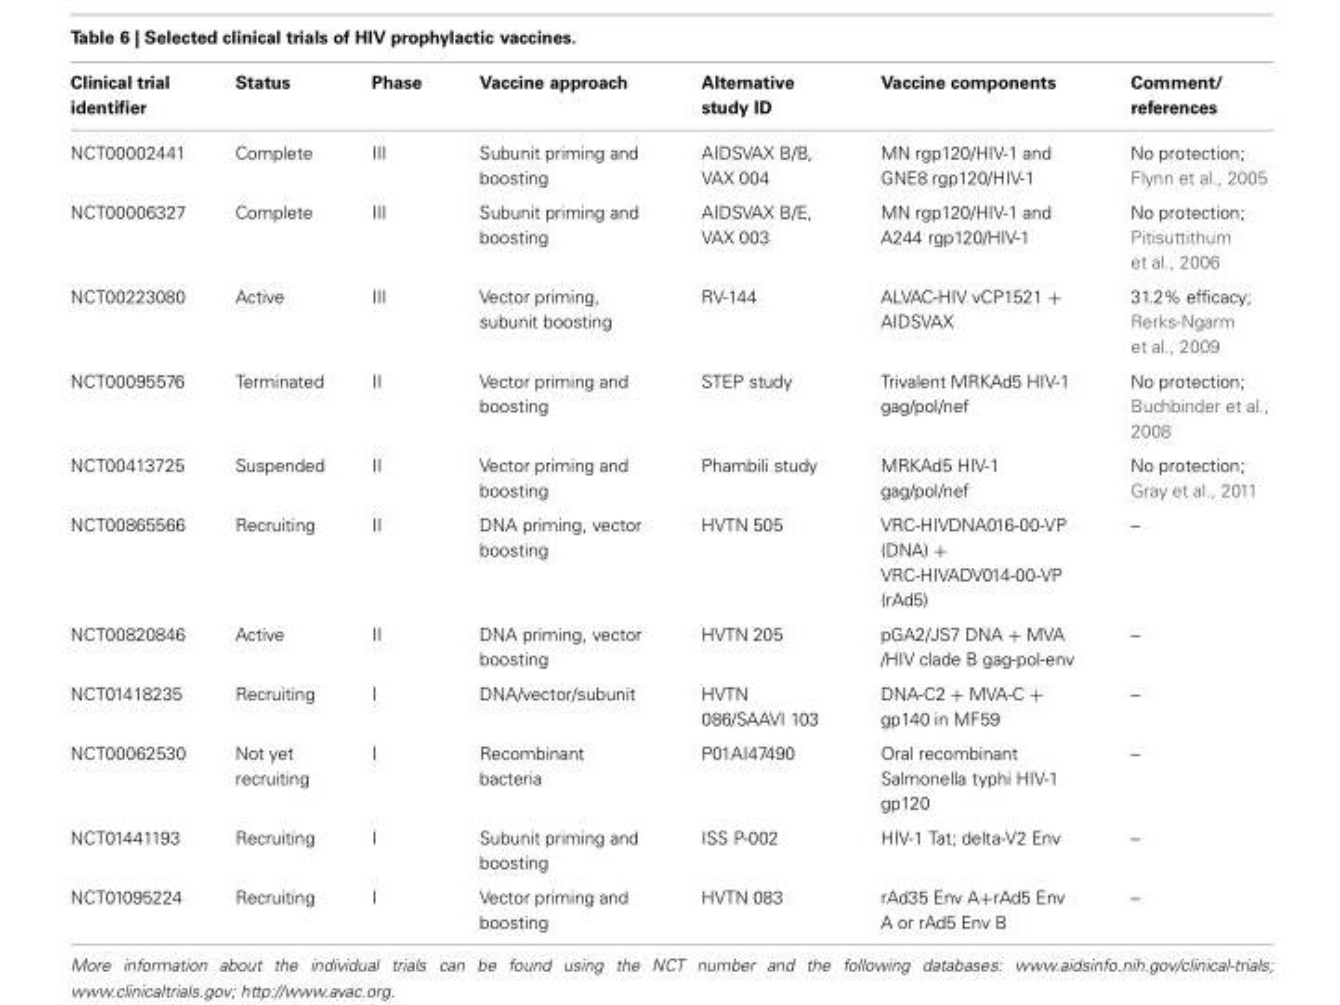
<table><thead><tr><td>Clinical trial identifier</td><td>Status</td><td>Phase</td><td>Vaccine approach</td><td>Alternative study ID</td><td>Vaccine components</td><td>Comment/ references</td></tr></thead><tbody><tr><td>NCT00002441</td><td>Complete</td><td>III</td><td>Subunit priming and boosting</td><td>AIDSVAX B/B, VAX 004</td><td>MN rgp120/HIV-1 and GNE8 rgp120/HIV-1</td><td>No protection; Flynn et al., 2005</td></tr><tr><td>NCT00006327</td><td>Complete</td><td>III</td><td>Subunit priming and boosting</td><td>AIDSVAX B/E, VAX 003</td><td>MN rgp120/HIV-1 and A244 rgp120/HIV-1</td><td>No protection; Pitisuttithum et al., 2006</td></tr><tr><td>NCT00223080</td><td>Active</td><td>III</td><td>Vector priming, subunit boosting</td><td>RV-144</td><td>ALVAC-HIV vCP1521 + AIDSVAX</td><td>31.2% efficacy; Rerks-Ngarm et al., 2009</td></tr><tr><td>NCT00095576</td><td>Terminated</td><td>II</td><td>Vector priming and boosting</td><td>STEP study</td><td>Trivalent MRKAd5 HIV-1 gag/pol/nef</td><td>No protection; Buchbinder et al., 2008</td></tr><tr><td>NCT00413725</td><td>Suspended</td><td>II</td><td>Vector priming and boosting</td><td>Phambili study</td><td>MRKAd5 HIV-1 gag/pol/nef</td><td>No protection; Gray et al., 2011</td></tr><tr><td>NCT00865566</td><td>Recruiting</td><td>II</td><td>DNA priming, vector boosting</td><td>HVTN 505</td><td>VRC-HIVDNA016-00-VP (DNA) + VRC-HIVADV014-00-VP (rAd5)</td><td>–</td></tr><tr><td>NCT00820846</td><td>Active</td><td>II</td><td>DNA priming, vector boosting</td><td>HVTN 205</td><td>pGA2/JS7 DNA + MVA /HIV clade B gag-pol-env</td><td>–</td></tr><tr><td>NCT01418235</td><td>Recruiting</td><td>I</td><td>DNA/vector/subunit</td><td>HVTN 086/SAAVI 103</td><td>DNA-C2 + MVA-C + gp140 in MF59</td><td>–</td></tr><tr><td>NCT00062530</td><td>Not yet recruiting</td><td>I</td><td>Recombinant bacteria</td><td>P01AI47490</td><td>Oral recombinant Salmonella typhi HIV-1 gp120</td><td>–</td></tr><tr><td>NCT01441193</td><td>Recruiting</td><td>I</td><td>Subunit priming and boosting</td><td>ISS P-002</td><td>HIV-1 Tat; delta-V2 Env</td><td>–</td></tr><tr><td>NCT01095224</td><td>Recruiting</td><td>I</td><td>Vector priming and boosting</td><td>HVTN 083</td><td>rAd35 Env A+rAd5 Env A or rAd5 Env B</td><td>–</td></tr></tbody></table>